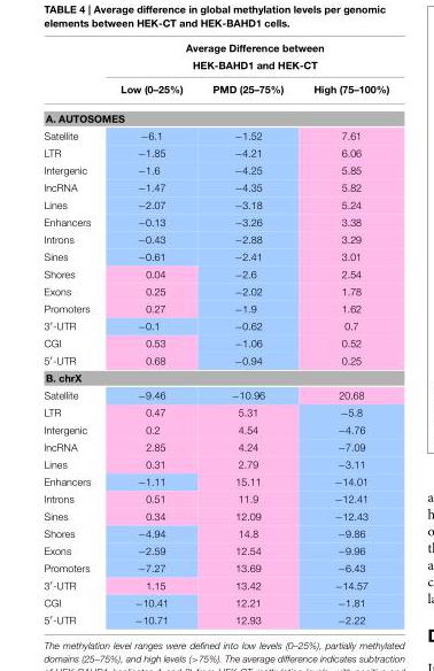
<table><thead><tr><td rowspan="2"></td><td colspan="3">Average Difference between HEK-BAHD1 and HEK-CT</td></tr><tr><td>Low (0–25%)</td><td>PMD (25–75%)</td><td>High (75–100%)</td></tr></thead><tbody><tr><td colspan="4">A. AUTOSOMES</td></tr><tr><td>Satellite</td><td>−6.1</td><td>−1.52</td><td>7.61</td></tr><tr><td>LTR</td><td>−1.85</td><td>−4.21</td><td>6.06</td></tr><tr><td>Intergenic</td><td>−1.6</td><td>−4.25</td><td>5.85</td></tr><tr><td>lncRNA</td><td>−1.47</td><td>−4.35</td><td>5.82</td></tr><tr><td>Lines</td><td>−2.07</td><td>−3.18</td><td>5.24</td></tr><tr><td>Enhancers</td><td>−0.13</td><td>−3.26</td><td>3.38</td></tr><tr><td>Introns</td><td>−0.43</td><td>−2.88</td><td>3.29</td></tr><tr><td>Sines</td><td>−0.61</td><td>−2.41</td><td>3.01</td></tr><tr><td>Shores</td><td>0.04</td><td>−2.6</td><td>2.54</td></tr><tr><td>Exons</td><td>0.25</td><td>−2.02</td><td>1.78</td></tr><tr><td>Promoters</td><td>0.27</td><td>−1.9</td><td>1.62</td></tr><tr><td>3′-UTR</td><td>−0.1</td><td>−0.62</td><td>0.7</td></tr><tr><td>CGI</td><td>0.53</td><td>−1.06</td><td>0.52</td></tr><tr><td>5′-UTR</td><td>0.68</td><td>−0.94</td><td>0.25</td></tr><tr><td colspan="4">B. chrX</td></tr><tr><td>Satellite</td><td>−9.46</td><td>−10.96</td><td>20.68</td></tr><tr><td>LTR</td><td>0.47</td><td>5.31</td><td>−5.8</td></tr><tr><td>Intergenic</td><td>0.2</td><td>4.54</td><td>−4.76</td></tr><tr><td>lncRNA</td><td>2.85</td><td>4.24</td><td>−7.09</td></tr><tr><td>Lines</td><td>0.31</td><td>2.79</td><td>−3.11</td></tr><tr><td>Enhancers</td><td>−1.11</td><td>15.11</td><td>−14.01</td></tr><tr><td>Introns</td><td>0.51</td><td>11.9</td><td>−12.41</td></tr><tr><td>Sines</td><td>0.34</td><td>12.09</td><td>−12.43</td></tr><tr><td>Shores</td><td>−4.94</td><td>14.8</td><td>−9.86</td></tr><tr><td>Exons</td><td>−2.59</td><td>12.54</td><td>−9.96</td></tr><tr><td>Promoters</td><td>−7.27</td><td>13.69</td><td>−6.43</td></tr><tr><td>3′-UTR</td><td>1.15</td><td>13.42</td><td>−14.57</td></tr><tr><td>CGI</td><td>−10.41</td><td>12.21</td><td>−1.81</td></tr><tr><td>5′-UTR</td><td>−10.71</td><td>12.93</td><td>−2.22</td></tr></tbody></table>